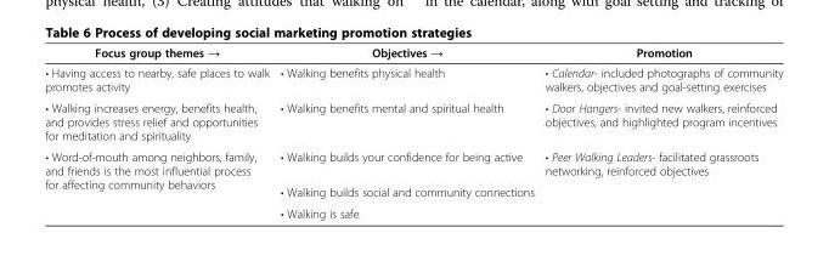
<table><thead><tr><td>Focus group themes →</td><td>Objectives →</td><td>Promotion</td></tr></thead><tbody><tr><td>• Having access to nearby, safe places to walk promotes activity</td><td>• Walking benefits physical health</td><td>• Calendar- included photographs of community walkers, objectives and goal-setting exercises</td></tr><tr><td>• Walking increases energy, benefits health, and provides stress relief and opportunities for meditation and spirituality</td><td>• Walking benefits mental and spiritual health</td><td>• Door Hangers- invited new walkers, reinforced objectives, and highlighted program incentives</td></tr><tr><td rowspan="3">• Word-of-mouth among neighbors, family, and friends is the most influential process for affecting community behaviors</td><td>• Walking builds your confidence for being active</td><td>• Peer Walking Leaders- facilitated grassroots networking, reinforced objectives</td></tr><tr><td>• Walking builds social and community connections</td><td rowspan="2"></td></tr><tr><td>• Walking is safe</td></tr></tbody></table>